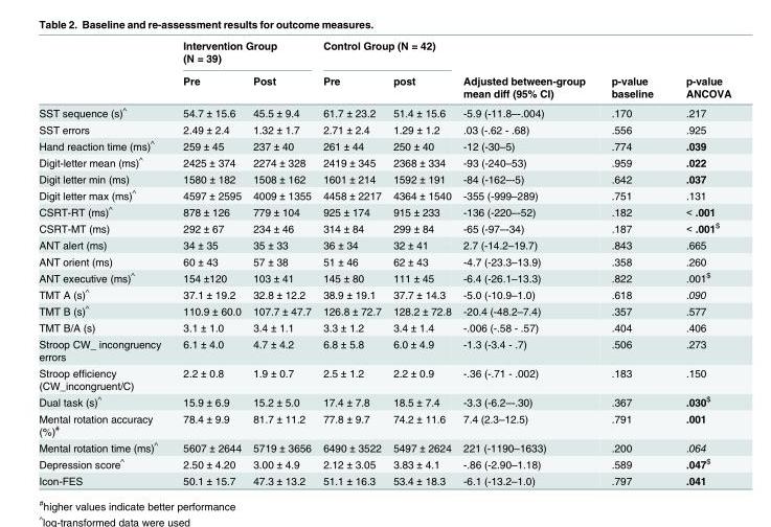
<table><thead><tr><td rowspan="2"></td><td colspan="2">Intervention Group (N = 39)</td><td colspan="2">Control Group (N = 42)</td><td rowspan="2">Adjusted between-group mean diff (95% CI)</td><td rowspan="2">p-value baseline</td><td rowspan="2">p-value ANCOVA</td></tr><tr><td>Pre</td><td>Post</td><td>Pre</td><td>post</td></tr></thead><tbody><tr><td>SST sequence (s)<sup>^</sup></td><td>54.7 ± 15.6</td><td>45.5 ± 9.4</td><td>61.7 ± 23.2</td><td>51.4 ± 15.6</td><td>-5.9 (-11.8–-.004)</td><td>.170</td><td>.217</td></tr><tr><td>SST errors</td><td>2.49 ± 2.4</td><td>1.32 ± 1.7</td><td>2.71 ± 2.4</td><td>1.29 ± 1.2</td><td>.03 (-.62 - .68)</td><td>.556</td><td>.925</td></tr><tr><td>Hand reaction time (ms)<sup>^</sup></td><td>259 ± 45</td><td>237 ± 40</td><td>261 ± 44</td><td>250 ± 40</td><td>-12 (-30–5)</td><td>.774</td><td>.039</td></tr><tr><td>Digit-letter mean (ms)<sup>^</sup></td><td>2425 ± 374</td><td>2274 ± 328</td><td>2419 ± 345</td><td>2368 ± 334</td><td>-93 (-240–53)</td><td>.959</td><td>.022</td></tr><tr><td>Digit letter min (ms)</td><td>1580 ± 182</td><td>1508 ± 162</td><td>1601 ± 214</td><td>1592 ± 191</td><td>-84 (-162–-5)</td><td>.642</td><td>.037</td></tr><tr><td>Digit letter max (ms)<sup>^</sup></td><td>4597 ± 2595</td><td>4009 ± 1355</td><td>4458 ± 2217</td><td>4364 ± 1540</td><td>-355 (-999–289)</td><td>.751</td><td>.131</td></tr><tr><td>CSRT-RT (ms)<sup>^</sup></td><td>878 ± 126</td><td>779 ± 104</td><td>925 ± 174</td><td>915 ± 233</td><td>-136 (-220–-52)</td><td>.182</td><td>&lt; .001</td></tr><tr><td>CSRT-MT (ms)</td><td>292 ± 67</td><td>234 ± 46</td><td>314 ± 84</td><td>299 ± 84</td><td>-65 (-97–-34)</td><td>.187</td><td>&lt; .001<sup>$</sup></td></tr><tr><td>ANT alert (ms)</td><td>34 ± 35</td><td>35 ± 33</td><td>36 ± 34</td><td>32 ± 41</td><td>2.7 (-14.2–19.7)</td><td>.843</td><td>.665</td></tr><tr><td>ANT orient (ms)</td><td>60 ± 43</td><td>57 ± 38</td><td>51 ± 46</td><td>62 ± 43</td><td>-4.7 (-23.3–13.9)</td><td>.358</td><td>.260</td></tr><tr><td>ANT executive (ms)<sup>^</sup></td><td>154 ±120</td><td>103 ± 41</td><td>145 ± 80</td><td>111 ± 45</td><td>-6.4 (-26.1–13.3)</td><td>.822</td><td>.001<sup>$</sup></td></tr><tr><td>TMT A (s)<sup>^</sup></td><td>37.1 ± 19.2</td><td>32.8 ± 12.2</td><td>38.9 ± 19.1</td><td>37.7 ± 14.3</td><td>-5.0 (-10.9–1.0)</td><td>.618</td><td>.090</td></tr><tr><td>TMT B (s)<sup>^</sup></td><td>110.9 ± 60.0</td><td>107.7 ± 47.7</td><td>126.8 ± 72.7</td><td>128.2 ± 72.8</td><td>-20.4 (-48.2–7.4)</td><td>.357</td><td>.577</td></tr><tr><td>TMT B/A (s)</td><td>3.1 ± 1.0</td><td>3.4 ± 1.1</td><td>3.3 ± 1.2</td><td>3.4 ± 1.4</td><td>-.006 (-.58 - .57)</td><td>.404</td><td>.406</td></tr><tr><td>Stroop CW_ incongruency errors</td><td>6.1 ± 4.0</td><td>4.7 ± 4.2</td><td>6.8 ± 5.8</td><td>6.0 ± 4.9</td><td>-1.3 (-3.4 - .7)</td><td>.506</td><td>.273</td></tr><tr><td>Stroop efficiency (CW_incongruent/C)</td><td>2.2 ± 0.8</td><td>1.9 ± 0.7</td><td>2.5 ± 1.2</td><td>2.2 ± 0.9</td><td>-.36 (-.71 - .002)</td><td>.183</td><td>.150</td></tr><tr><td>Dual task (s)<sup>^</sup></td><td>15.9 ± 6.9</td><td>15.2 ± 5.0</td><td>17.4 ± 7.8</td><td>18.5 ± 7.4</td><td>-3.3 (-6.2–-.30)</td><td>.367</td><td>.030<sup>$</sup></td></tr><tr><td>Mental rotation accuracy (%)<sup>#</sup></td><td>78.4 ± 9.9</td><td>81.7 ± 11.2</td><td>77.8 ± 9.7</td><td>74.2 ± 11.6</td><td>7.4 (2.3–12.5)</td><td>.791</td><td>.001</td></tr><tr><td>Mental rotation time (ms)<sup>^</sup></td><td>5607 ± 2644</td><td>5719 ± 3656</td><td>6490 ± 3522</td><td>5497 ± 2624</td><td>221 (-1190–1633)</td><td>.200</td><td>.064</td></tr><tr><td>Depression score<sup>^</sup></td><td>2.50 ± 4.20</td><td>3.00 ± 4.9</td><td>2.12 ± 3.05</td><td>3.83 ± 4.1</td><td>-.86 (-2.90–1.18)</td><td>.589</td><td>.047<sup>$</sup></td></tr><tr><td>Icon-FES</td><td>50.1 ± 15.7</td><td>47.3 ± 13.2</td><td>51.1 ± 16.3</td><td>53.4 ± 18.3</td><td>-6.1 (-13.2–1.0)</td><td>.797</td><td>.041</td></tr></tbody></table>